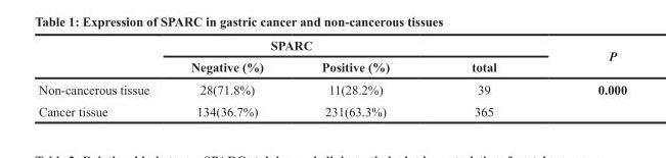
<table><thead><tr><td rowspan="2"></td><td colspan="3">SPARC</td><td rowspan="2">P</td></tr><tr><td>Negative (%)</td><td>Positive (%)</td><td>total</td></tr></thead><tbody><tr><td>Non-cancerous tissue</td><td>28(71.8%)</td><td>11(28.2%)</td><td>39</td><td>0.000</td></tr><tr><td>Cancer tissue</td><td>134(36.7%)</td><td>231(63.3%)</td><td>365</td><td></td></tr></tbody></table>